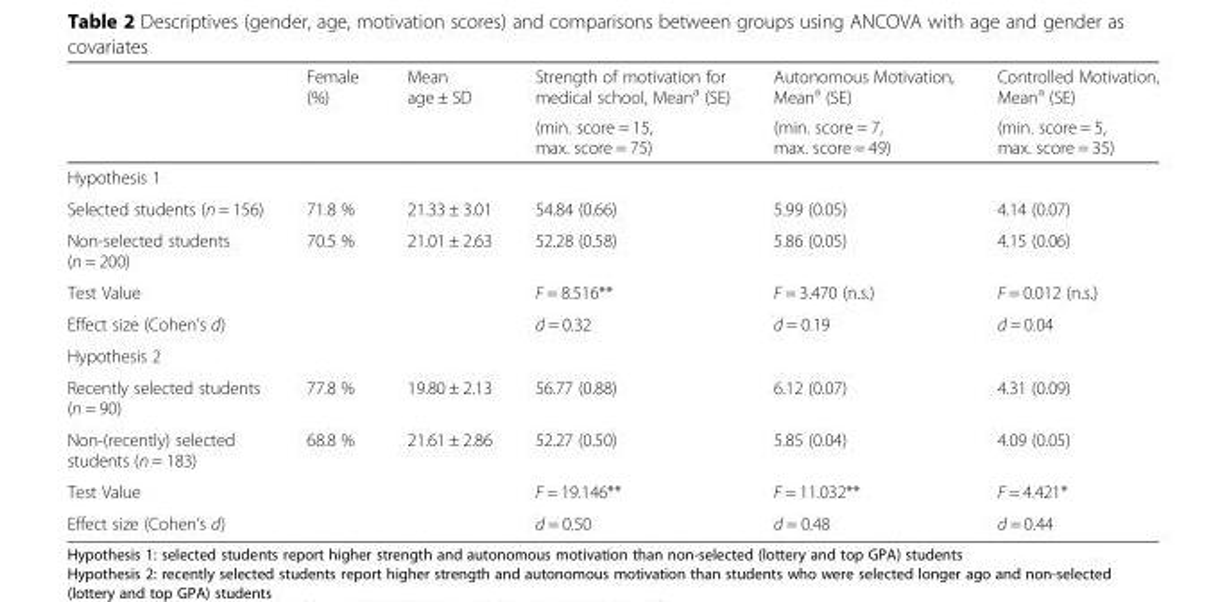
<table><thead><tr><td rowspan="2"></td><td rowspan="2">Female (%)</td><td rowspan="2">Mean age ± SD</td><td rowspan="2">Strength of motivation for medical school, Mean<sup>a</sup> (SE) (min. score = 15, max. score = 75)</td><td rowspan="2">Autonomous Motivation, Mean<sup>a</sup> (SE) (min. score = 7, max. score = 49)</td><td rowspan="2">Controlled Motivation, Mean<sup>a</sup> (SE) (min. score = 5, max. score = 35)</td></tr><tr></tr></thead><tbody><tr><td colspan="6">Hypothesis 1</td></tr><tr><td>Selected students (n = 156)</td><td>71.8 %</td><td>21.33 ± 3.01</td><td>54.84 (0.66)</td><td>5.99 (0.05)</td><td>4.14 (0.07)</td></tr><tr><td>Non-selected students (n = 200)</td><td>70.5 %</td><td>21.01 ± 2.63</td><td>52.28 (0.58)</td><td>5.86 (0.05)</td><td>4.15 (0.06)</td></tr><tr><td>Test Value</td><td></td><td></td><td>F = 8.516**</td><td>F = 3.470 (n.s.)</td><td>F = 0.012 (n.s.)</td></tr><tr><td>Effect size (Cohen’s d)</td><td></td><td></td><td>d = 0.32</td><td>d = 0.19</td><td>d = 0.04</td></tr><tr><td colspan="6">Hypothesis 2</td></tr><tr><td>Recently selected students (n = 90)</td><td>77.8 %</td><td>19.80 ± 2.13</td><td>56.77 (0.88)</td><td>6.12 (0.07)</td><td>4.31 (0.09)</td></tr><tr><td>Non-(recently) selected students (n = 183)</td><td>68.8 %</td><td>21.61 ± 2.86</td><td>52.27 (0.50)</td><td>5.85 (0.04)</td><td>4.09 (0.05)</td></tr><tr><td>Test Value</td><td></td><td></td><td>F = 19.146**</td><td>F = 11.032**</td><td>F = 4.421*</td></tr><tr><td>Effect size (Cohen’s d)</td><td></td><td></td><td>d = 0.50</td><td>d = 0.48</td><td>d = 0.44</td></tr></tbody></table>